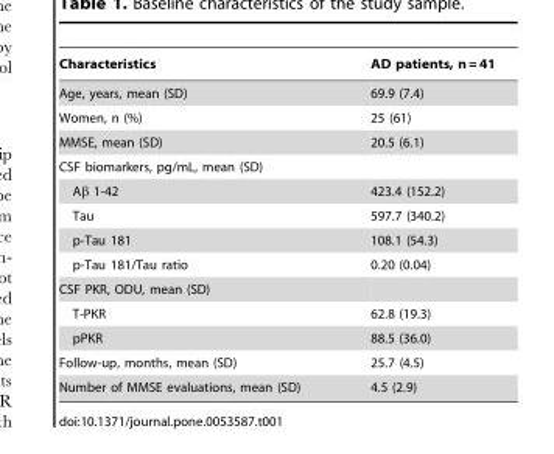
<table><thead><tr><td>Characteristics</td><td>AD patients, n = 41</td></tr></thead><tbody><tr><td>Age, years, mean (SD)</td><td>69.9 (7.4)</td></tr><tr><td>Women, n (%)</td><td>25 (61)</td></tr><tr><td>MMSE, mean (SD)</td><td>20.5 (6.1)</td></tr><tr><td colspan="2">CSF biomarkers, pg/mL, mean (SD)</td></tr><tr><td>Aβ 1-42</td><td>423.4 (152.2)</td></tr><tr><td>Tau</td><td>597.7 (340.2)</td></tr><tr><td>p-Tau 181</td><td>108.1 (54.3)</td></tr><tr><td>p-Tau 181/Tau ratio</td><td>0.20 (0.04)</td></tr><tr><td colspan="2">CSF PKR, ODU, mean (SD)</td></tr><tr><td>T-PKR</td><td>62.8 (19.3)</td></tr><tr><td>pPKR</td><td>88.5 (36.0)</td></tr><tr><td>Follow-up, months, mean (SD)</td><td>25.7 (4.5)</td></tr><tr><td>Number of MMSE evaluations, mean (SD)</td><td>4.5 (2.9)</td></tr></tbody></table>